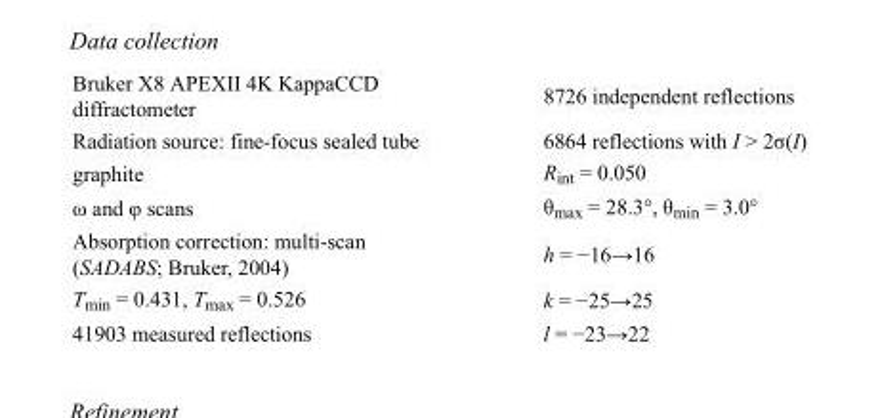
<table><tbody><tr><td>Bruker X8 APEXII 4K KappaCCD diffractometer</td><td>8726 independent reflections</td></tr><tr><td>Radiation source: fine-focus sealed tube</td><td>6864 reflections with I &gt; 2σ(I)</td></tr><tr><td>graphite</td><td>R<sub>int</sub> = 0.050</td></tr><tr><td>ω and φ scans</td><td>θ<sub>max</sub> = 28.3°, θ<sub>min</sub> = 3.0°</td></tr><tr><td>Absorption correction: multi-scan (SADABS; Bruker, 2004)</td><td>h = −16→16</td></tr><tr><td>T<sub>min</sub> = 0.431, T<sub>max</sub> = 0.526</td><td>k = −25→25</td></tr><tr><td>41903 measured reflections</td><td>l = −23→22</td></tr></tbody></table>